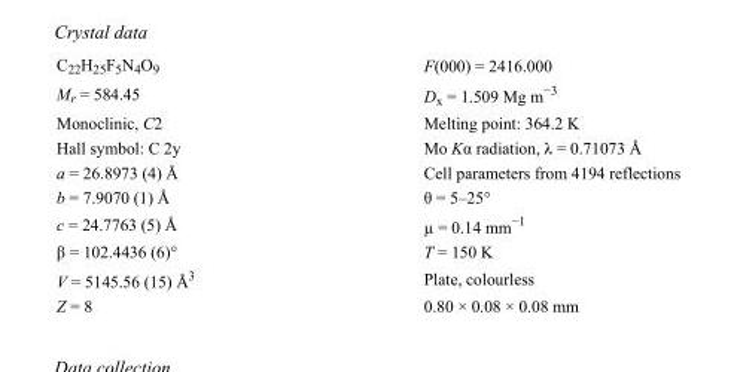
<table><tbody><tr><td>C<sub>22</sub>H<sub>25</sub>F<sub>5</sub>N<sub>4</sub>O<sub>9</sub></td><td>F(000) = 2416.000</td></tr><tr><td>M<sub>r</sub> = 584.45</td><td>D<sub>x</sub> = 1.509 Mg m<sup>−3</sup></td></tr><tr><td>Monoclinic, C2</td><td>Melting point: 364.2 K</td></tr><tr><td>Hall symbol: C 2y</td><td>Mo Kα radiation, λ = 0.71073 Å</td></tr><tr><td>a = 26.8973 (4) Å</td><td>Cell parameters from 4194 reflections</td></tr><tr><td>b = 7.9070 (1) Å</td><td>θ = 5–25°</td></tr><tr><td>c = 24.7763 (5) Å</td><td>µ = 0.14 mm<sup>−1</sup></td></tr><tr><td>β = 102.4436 (6)°</td><td>T = 150 K</td></tr><tr><td>V = 5145.56 (15) Å<sup>3</sup></td><td>Plate, colourless</td></tr><tr><td>Z = 8</td><td>0.80 × 0.08 × 0.08 mm</td></tr></tbody></table>